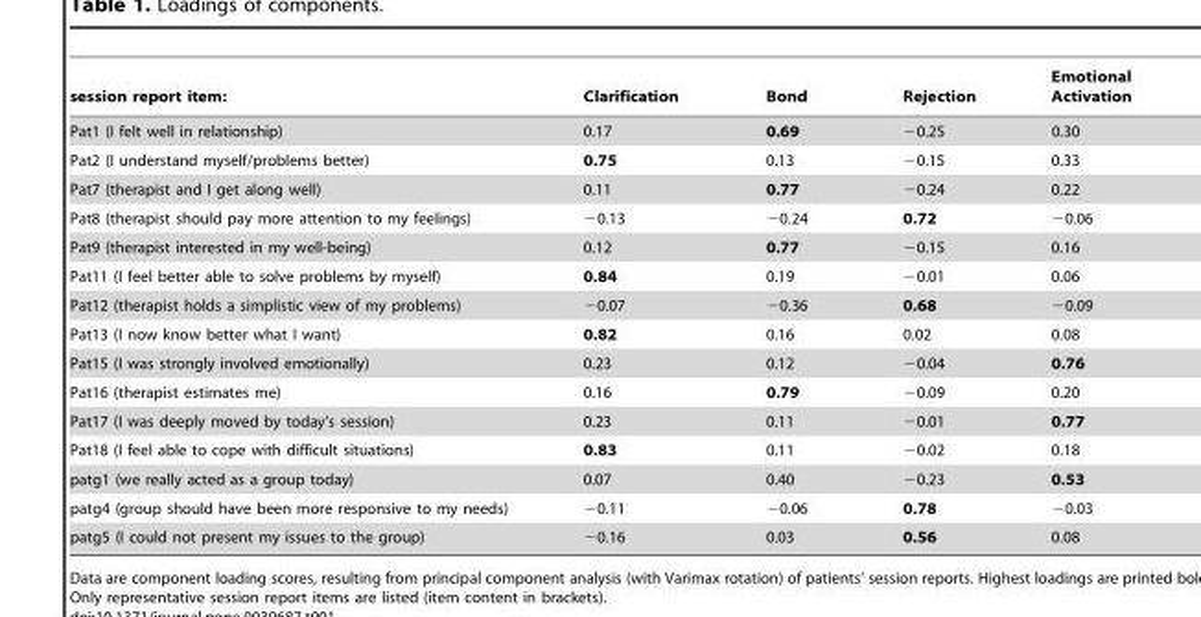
<table><thead><tr><td>session report item:</td><td>Clarification</td><td>Bond</td><td>Rejection</td><td>Emotional Activation</td></tr></thead><tbody><tr><td>Pat1 (I felt well in relationship)</td><td>0.17</td><td>0.69</td><td>−0.25</td><td>0.30</td></tr><tr><td>Pat2 (I understand myself/problems better)</td><td>0.75</td><td>0.13</td><td>−0.15</td><td>0.33</td></tr><tr><td>Pat7 (therapist and I get along well)</td><td>0.11</td><td>0.77</td><td>−0.24</td><td>0.22</td></tr><tr><td>Pat8 (therapist should pay more attention to my feelings)</td><td>−0.13</td><td>−0.24</td><td>0.72</td><td>−0.06</td></tr><tr><td>Pat9 (therapist interested in my well-being)</td><td>0.12</td><td>0.77</td><td>−0.15</td><td>0.16</td></tr><tr><td>Pat11 (I feel better able to solve problems by myself)</td><td>0.84</td><td>0.19</td><td>−0.01</td><td>0.06</td></tr><tr><td>Pat12 (therapist holds a simplistic view of my problems)</td><td>−0.07</td><td>−0.36</td><td>0.68</td><td>−0.09</td></tr><tr><td>Pat13 (I now know better what I want)</td><td>0.82</td><td>0.16</td><td>0.02</td><td>0.08</td></tr><tr><td>Pat15 (I was strongly involved emotionally)</td><td>0.23</td><td>0.12</td><td>−0.04</td><td>0.76</td></tr><tr><td>Pat16 (therapist estimates me)</td><td>0.16</td><td>0.79</td><td>−0.09</td><td>0.20</td></tr><tr><td>Pat17 (I was deeply moved by today’s session)</td><td>0.23</td><td>0.11</td><td>−0.01</td><td>0.77</td></tr><tr><td>Pat18 (I feel able to cope with difficult situations)</td><td>0.83</td><td>0.11</td><td>−0.02</td><td>0.18</td></tr><tr><td>patg1 (we really acted as a group today)</td><td>0.07</td><td>0.40</td><td>−0.23</td><td>0.53</td></tr><tr><td>patg4 (group should have been more responsive to my needs)</td><td>−0.11</td><td>−0.06</td><td>0.78</td><td>−0.03</td></tr><tr><td>patg5 (I could not present my issues to the group)</td><td>−0.16</td><td>0.03</td><td>0.56</td><td>0.08</td></tr></tbody></table>